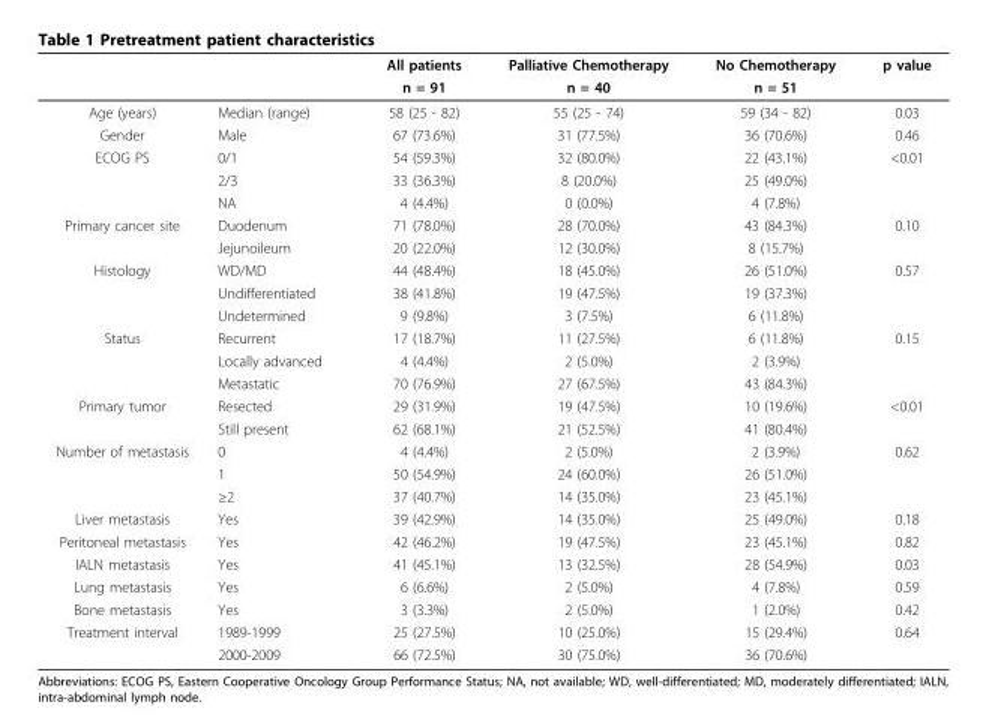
<table><thead><tr><td rowspan="2"></td><td rowspan="2"></td><td rowspan="2">All patients n = 91</td><td rowspan="2">Palliative Chemotherapy n = 40</td><td rowspan="2">No Chemotherapy n = 51</td><td rowspan="2">p value</td></tr><tr></tr></thead><tbody><tr><td>Age (years)</td><td>Median (range)</td><td>58 (25 - 82)</td><td>55 (25 - 74)</td><td>59 (34 - 82)</td><td>0.03</td></tr><tr><td>Gender</td><td>Male</td><td>67 (73.6%)</td><td>31 (77.5%)</td><td>36 (70.6%)</td><td>0.46</td></tr><tr><td rowspan="3">ECOG PS</td><td>0/1</td><td>54 (59.3%)</td><td>32 (80.0%)</td><td>22 (43.1%)</td><td>&lt;0.01</td></tr><tr><td>2/3</td><td>33 (36.3%)</td><td>8 (20.0%)</td><td>25 (49.0%)</td><td></td></tr><tr><td>NA</td><td>4 (4.4%)</td><td>0 (0.0%)</td><td>4 (7.8%)</td><td></td></tr><tr><td rowspan="2">Primary cancer site</td><td>Duodenum</td><td>71 (78.0%)</td><td>28 (70.0%)</td><td>43 (84.3%)</td><td>0.10</td></tr><tr><td>Jejunoileum</td><td>20 (22.0%)</td><td>12 (30.0%)</td><td>8 (15.7%)</td><td></td></tr><tr><td rowspan="3">Histology</td><td>WD/MD</td><td>44 (48.4%)</td><td>18 (45.0%)</td><td>26 (51.0%)</td><td>0.57</td></tr><tr><td>Undifferentiated</td><td>38 (41.8%)</td><td>19 (47.5%)</td><td>19 (37.3%)</td><td></td></tr><tr><td>Undetermined</td><td>9 (9.8%)</td><td>3 (7.5%)</td><td>6 (11.8%)</td><td></td></tr><tr><td rowspan="3">Status</td><td>Recurrent</td><td>17 (18.7%)</td><td>11 (27.5%)</td><td>6 (11.8%)</td><td>0.15</td></tr><tr><td>Locally advanced</td><td>4 (4.4%)</td><td>2 (5.0%)</td><td>2 (3.9%)</td><td></td></tr><tr><td>Metastatic</td><td>70 (76.9%)</td><td>27 (67.5%)</td><td>43 (84.3%)</td><td></td></tr><tr><td rowspan="2">Primary tumor</td><td>Resected</td><td>29 (31.9%)</td><td>19 (47.5%)</td><td>10 (19.6%)</td><td>&lt;0.01</td></tr><tr><td>Still present</td><td>62 (68.1%)</td><td>21 (52.5%)</td><td>41 (80.4%)</td><td></td></tr><tr><td rowspan="3">Number of metastasis</td><td>0</td><td>4 (4.4%)</td><td>2 (5.0%)</td><td>2 (3.9%)</td><td>0.62</td></tr><tr><td>1</td><td>50 (54.9%)</td><td>24 (60.0%)</td><td>26 (51.0%)</td><td></td></tr><tr><td>≥2</td><td>37 (40.7%)</td><td>14 (35.0%)</td><td>23 (45.1%)</td><td></td></tr><tr><td>Liver metastasis</td><td>Yes</td><td>39 (42.9%)</td><td>14 (35.0%)</td><td>25 (49.0%)</td><td>0.18</td></tr><tr><td>Peritoneal metastasis</td><td>Yes</td><td>42 (46.2%)</td><td>19 (47.5%)</td><td>23 (45.1%)</td><td>0.82</td></tr><tr><td>IALN metastasis</td><td>Yes</td><td>41 (45.1%)</td><td>13 (32.5%)</td><td>28 (54.9%)</td><td>0.03</td></tr><tr><td>Lung metastasis</td><td>Yes</td><td>6 (6.6%)</td><td>2 (5.0%)</td><td>4 (7.8%)</td><td>0.59</td></tr><tr><td>Bone metastasis</td><td>Yes</td><td>3 (3.3%)</td><td>2 (5.0%)</td><td>1 (2.0%)</td><td>0.42</td></tr><tr><td rowspan="2">Treatment interval</td><td>1989-1999</td><td>25 (27.5%)</td><td>10 (25.0%)</td><td>15 (29.4%)</td><td>0.64</td></tr><tr><td>2000-2009</td><td>66 (72.5%)</td><td>30 (75.0%)</td><td>36 (70.6%)</td><td></td></tr></tbody></table>